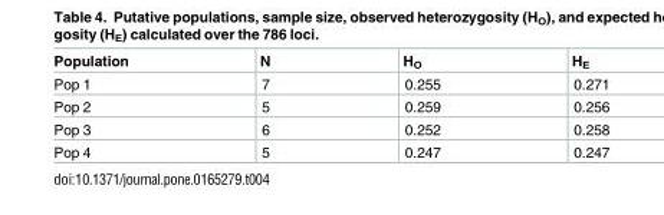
<table><thead><tr><td>Population</td><td>N</td><td>H<sub>O</sub></td><td>H<sub>E</sub></td></tr></thead><tbody><tr><td>Pop 1</td><td>7</td><td>0.255</td><td>0.271</td></tr><tr><td>Pop 2</td><td>5</td><td>0.259</td><td>0.256</td></tr><tr><td>Pop 3</td><td>6</td><td>0.252</td><td>0.258</td></tr><tr><td>Pop 4</td><td>5</td><td>0.247</td><td>0.247</td></tr></tbody></table>